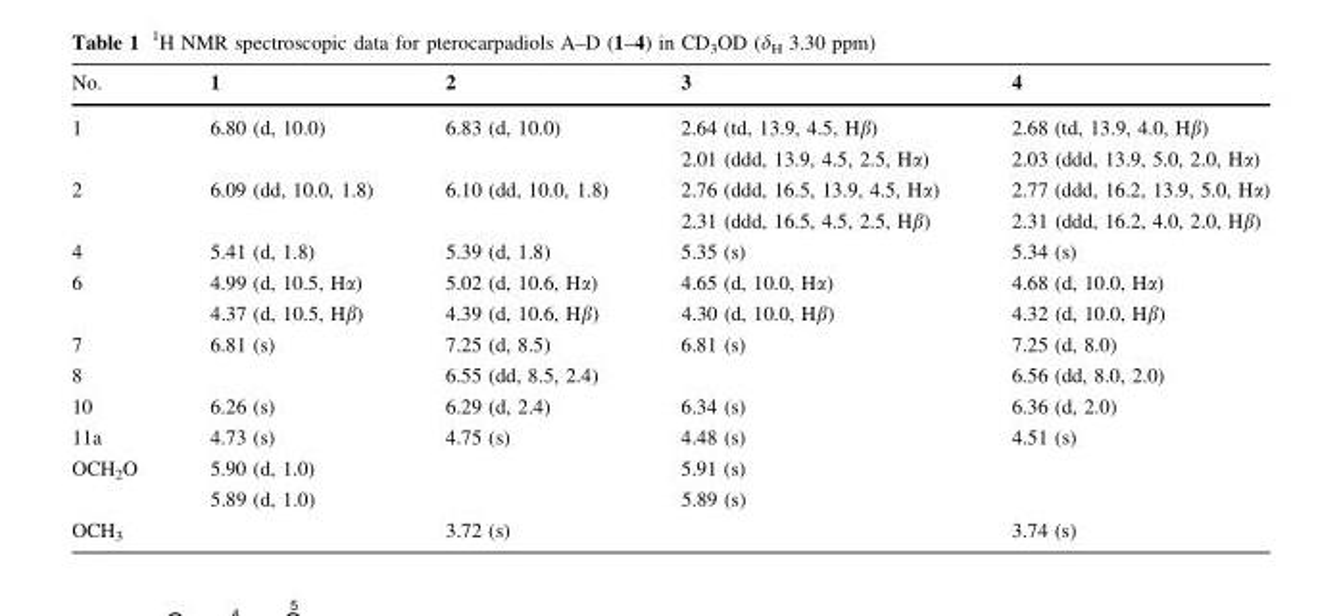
<table><thead><tr><td>No.</td><td>1</td><td>2</td><td>3</td><td>4</td></tr></thead><tbody><tr><td>1</td><td>6.80 (d, 10.0)</td><td>6.83 (d, 10.0)</td><td>2.64 (td, 13.9, 4.5, Hβ) 2.01 (ddd, 13.9, 4.5, 2.5, Hα)</td><td>2.68 (td, 13.9, 4.0, Hβ) 2.03 (ddd, 13.9, 5.0, 2.0, Hα)</td></tr><tr><td>2</td><td>6.09 (dd, 10.0, 1.8)</td><td>6.10 (dd, 10.0, 1.8)</td><td>2.76 (ddd, 16.5, 13.9, 4.5, Hα) 2.31 (ddd, 16.5, 4.5, 2.5, Hβ)</td><td>2.77 (ddd, 16.2, 13.9, 5.0, Hα) 2.31 (ddd, 16.2, 4.0, 2.0, Hβ)</td></tr><tr><td>4</td><td>5.41 (d, 1.8)</td><td>5.39 (d, 1.8)</td><td>5.35 (s)</td><td>5.34 (s)</td></tr><tr><td>6</td><td>4.99 (d, 10.5, Hα) 4.37 (d, 10.5, Hβ)</td><td>5.02 (d, 10.6, Hα) 4.39 (d, 10.6, Hβ)</td><td>4.65 (d, 10.0, Hα) 4.30 (d, 10.0, Hβ)</td><td>4.68 (d, 10.0, Hα) 4.32 (d, 10.0, Hβ)</td></tr><tr><td>7</td><td>6.81 (s)</td><td>7.25 (d, 8.5)</td><td>6.81 (s)</td><td>7.25 (d, 8.0)</td></tr><tr><td>8</td><td></td><td>6.55 (dd, 8.5, 2.4)</td><td></td><td>6.56 (dd, 8.0, 2.0)</td></tr><tr><td>10</td><td>6.26 (s)</td><td>6.29 (d, 2.4)</td><td>6.34 (s)</td><td>6.36 (d, 2.0)</td></tr><tr><td>11a</td><td>4.73 (s)</td><td>4.75 (s)</td><td>4.48 (s)</td><td>4.51 (s)</td></tr><tr><td>OCH<sub>2</sub>O</td><td>5.90 (d, 1.0) 5.89 (d, 1.0)</td><td></td><td>5.91 (s) 5.89 (s)</td><td></td></tr><tr><td>OCH<sub>3</sub></td><td></td><td>3.72 (s)</td><td></td><td>3.74 (s)</td></tr></tbody></table>